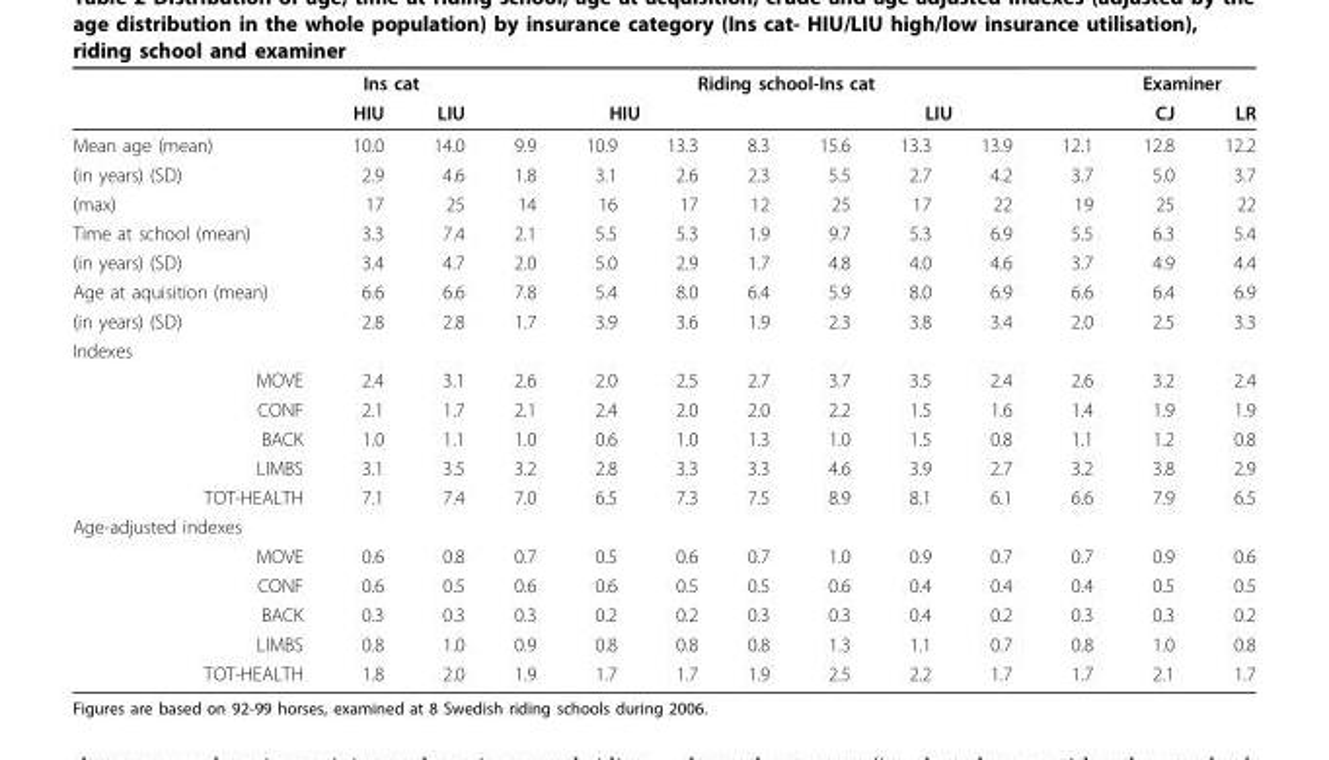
<table><thead><tr><td rowspan="3">Mean age (mean)</td><td colspan="2">Ins cat</td><td colspan="8">Riding school-Ins cat</td><td colspan="2">Examiner</td></tr><tr><td rowspan="2">HIU 10.0</td><td rowspan="2">LIU 14.0</td><td colspan="4">HIU</td><td colspan="4">LIU</td><td rowspan="2">CJ 12.8</td><td rowspan="2">LR 12.2</td></tr><tr><td>9.9</td><td>10.9</td><td>13.3</td><td>8.3</td><td>15.6</td><td>13.3</td><td>13.9</td><td>12.1</td></tr></thead><tbody><tr><td>(in years) (SD)</td><td>2.9</td><td>4.6</td><td>1.8</td><td>3.1</td><td>2.6</td><td>2.3</td><td>5.5</td><td>2.7</td><td>4.2</td><td>3.7</td><td>5.0</td><td>3.7</td></tr><tr><td>(max)</td><td>17</td><td>25</td><td>14</td><td>16</td><td>17</td><td>12</td><td>25</td><td>17</td><td>22</td><td>19</td><td>25</td><td>22</td></tr><tr><td>Time at school (mean)</td><td>3.3</td><td>7.4</td><td>2.1</td><td>5.5</td><td>5.3</td><td>1.9</td><td>9.7</td><td>5.3</td><td>6.9</td><td>5.5</td><td>6.3</td><td>5.4</td></tr><tr><td>(in years) (SD)</td><td>3.4</td><td>4.7</td><td>2.0</td><td>5.0</td><td>2.9</td><td>1.7</td><td>4.8</td><td>4.0</td><td>4.6</td><td>3.7</td><td>4.9</td><td>4.4</td></tr><tr><td>Age at aquisition (mean)</td><td>6.6</td><td>6.6</td><td>7.8</td><td>5.4</td><td>8.0</td><td>6.4</td><td>5.9</td><td>8.0</td><td>6.9</td><td>6.6</td><td>6.4</td><td>6.9</td></tr><tr><td>(in years) (SD)</td><td>2.8</td><td>2.8</td><td>1.7</td><td>3.9</td><td>3.6</td><td>1.9</td><td>2.3</td><td>3.8</td><td>3.4</td><td>2.0</td><td>2.5</td><td>3.3</td></tr><tr><td colspan="13">Indexes</td></tr><tr><td>MOVE</td><td>2.4</td><td>3.1</td><td>2.6</td><td>2.0</td><td>2.5</td><td>2.7</td><td>3.7</td><td>3.5</td><td>2.4</td><td>2.6</td><td>3.2</td><td>2.4</td></tr><tr><td>CONF</td><td>2.1</td><td>1.7</td><td>2.1</td><td>2.4</td><td>2.0</td><td>2.0</td><td>2.2</td><td>1.5</td><td>1.6</td><td>1.4</td><td>1.9</td><td>1.9</td></tr><tr><td>BACK</td><td>1.0</td><td>1.1</td><td>1.0</td><td>0.6</td><td>1.0</td><td>1.3</td><td>1.0</td><td>1.5</td><td>0.8</td><td>1.1</td><td>1.2</td><td>0.8</td></tr><tr><td>LIMBS</td><td>3.1</td><td>3.5</td><td>3.2</td><td>2.8</td><td>3.3</td><td>3.3</td><td>4.6</td><td>3.9</td><td>2.7</td><td>3.2</td><td>3.8</td><td>2.9</td></tr><tr><td>TOT-HEALTH</td><td>7.1</td><td>7.4</td><td>7.0</td><td>6.5</td><td>7.3</td><td>7.5</td><td>8.9</td><td>8.1</td><td>6.1</td><td>6.6</td><td>7.9</td><td>6.5</td></tr><tr><td colspan="13">Age-adjusted indexes</td></tr><tr><td>MOVE</td><td>0.6</td><td>0.8</td><td>0.7</td><td>0.5</td><td>0.6</td><td>0.7</td><td>1.0</td><td>0.9</td><td>0.7</td><td>0.7</td><td>0.9</td><td>0.6</td></tr><tr><td>CONF</td><td>0.6</td><td>0.5</td><td>0.6</td><td>0.6</td><td>0.5</td><td>0.5</td><td>0.6</td><td>0.4</td><td>0.4</td><td>0.4</td><td>0.5</td><td>0.5</td></tr><tr><td>BACK</td><td>0.3</td><td>0.3</td><td>0.3</td><td>0.2</td><td>0.2</td><td>0.3</td><td>0.3</td><td>0.4</td><td>0.2</td><td>0.3</td><td>0.3</td><td>0.2</td></tr><tr><td>LIMBS</td><td>0.8</td><td>1.0</td><td>0.9</td><td>0.8</td><td>0.8</td><td>0.8</td><td>1.3</td><td>1.1</td><td>0.7</td><td>0.8</td><td>1.0</td><td>0.8</td></tr><tr><td>TOT-HEALTH</td><td>1.8</td><td>2.0</td><td>1.9</td><td>1.7</td><td>1.7</td><td>1.9</td><td>2.5</td><td>2.2</td><td>1.7</td><td>1.7</td><td>2.1</td><td>1.7</td></tr></tbody></table>